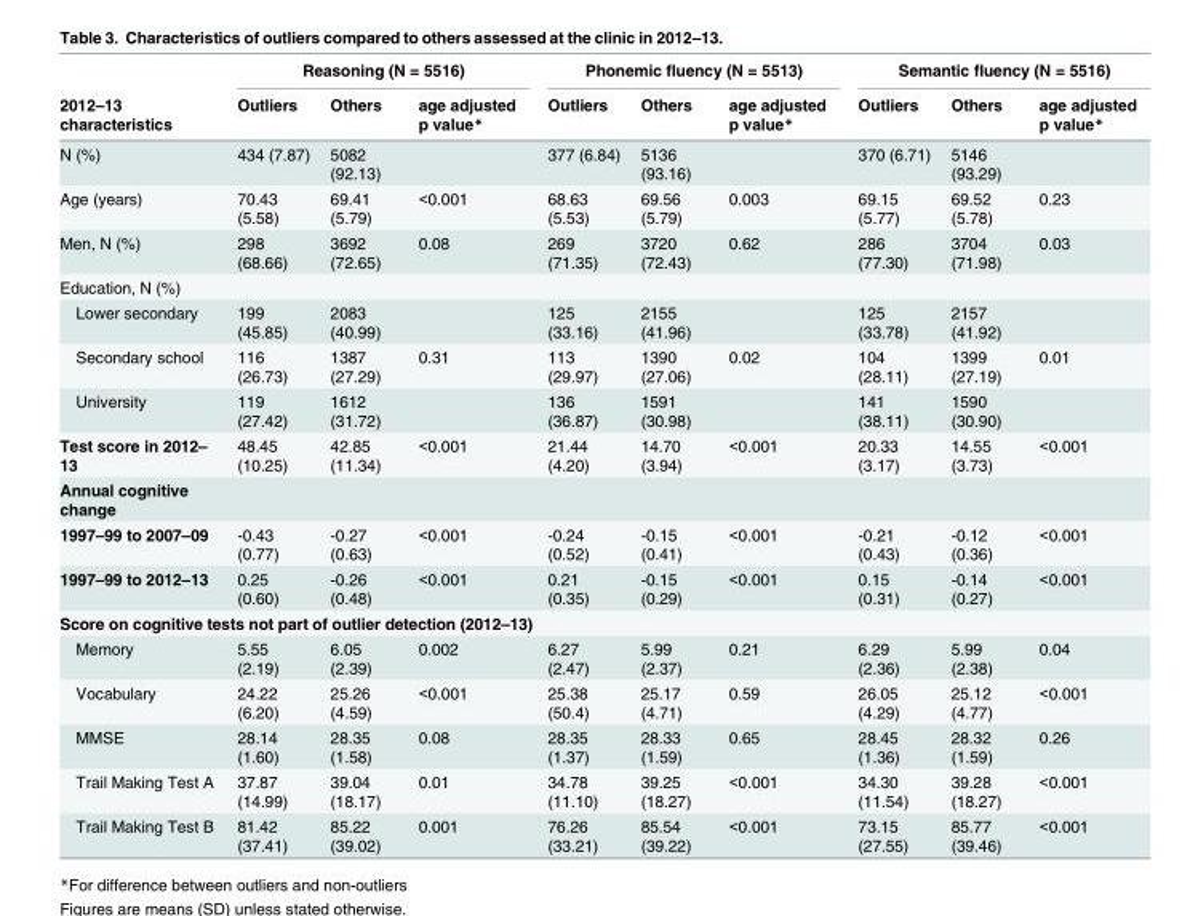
<table><thead><tr><td rowspan="2">2012–13 characteristics</td><td colspan="3">Reasoning (N = 5516)</td><td colspan="3">Phonemic fluency (N = 5513)</td><td colspan="3">Semantic fluency (N = 5516)</td></tr><tr><td>Outliers</td><td>Others</td><td>age adjusted p value*</td><td>Outliers</td><td>Others</td><td>age adjusted p value*</td><td>Outliers</td><td>Others</td><td>age adjusted p value*</td></tr></thead><tbody><tr><td>N (%)</td><td>434 (7.87)</td><td>5082 (92.13)</td><td></td><td>377 (6.84)</td><td>5136 (93.16)</td><td></td><td>370 (6.71)</td><td>5146 (93.29)</td><td></td></tr><tr><td>Age (years)</td><td>70.43 (5.58)</td><td>69.41 (5.79)</td><td>&lt;0.001</td><td>68.63 (5.53)</td><td>69.56 (5.79)</td><td>0.003</td><td>69.15 (5.77)</td><td>69.52 (5.78)</td><td>0.23</td></tr><tr><td>Men, N (%)</td><td>298 (68.66)</td><td>3692 (72.65)</td><td>0.08</td><td>269 (71.35)</td><td>3720 (72.43)</td><td>0.62</td><td>286 (77.30)</td><td>3704 (71.98)</td><td>0.03</td></tr><tr><td colspan="10">Education, N (%)</td></tr><tr><td>Lower secondary</td><td>199 (45.85)</td><td>2083 (40.99)</td><td></td><td>125 (33.16)</td><td>2155 (41.96)</td><td></td><td>125 (33.78)</td><td>2157 (41.92)</td><td></td></tr><tr><td>Secondary school</td><td>116 (26.73)</td><td>1387 (27.29)</td><td>0.31</td><td>113 (29.97)</td><td>1390 (27.06)</td><td>0.02</td><td>104 (28.11)</td><td>1399 (27.19)</td><td>0.01</td></tr><tr><td>University</td><td>119 (27.42)</td><td>1612 (31.72)</td><td></td><td>136 (36.87)</td><td>1591 (30.98)</td><td></td><td>141 (38.11)</td><td>1590 (30.90)</td><td></td></tr><tr><td>Test score in 2012– 13</td><td>48.45 (10.25)</td><td>42.85 (11.34)</td><td>&lt;0.001</td><td>21.44 (4.20)</td><td>14.70 (3.94)</td><td>&lt;0.001</td><td>20.33 (3.17)</td><td>14.55 (3.73)</td><td>&lt;0.001</td></tr><tr><td colspan="10">Annual cognitive change</td></tr><tr><td>1997–99 to 2007–09</td><td>-0.43 (0.77)</td><td>-0.27 (0.63)</td><td>&lt;0.001</td><td>-0.24 (0.52)</td><td>-0.15 (0.41)</td><td>&lt;0.001</td><td>-0.21 (0.43)</td><td>-0.12 (0.36)</td><td>&lt;0.001</td></tr><tr><td>1997–99 to 2012–13</td><td>0.25 (0.60)</td><td>-0.26 (0.48)</td><td>&lt;0.001</td><td>0.21 (0.35)</td><td>-0.15 (0.29)</td><td>&lt;0.001</td><td>0.15 (0.31)</td><td>-0.14 (0.27)</td><td>&lt;0.001</td></tr><tr><td colspan="10">Score on cognitive tests not part of outlier detection (2012–13)</td></tr><tr><td>Memory</td><td>5.55 (2.19)</td><td>6.05 (2.39)</td><td>0.002</td><td>6.27 (2.47)</td><td>5.99 (2.37)</td><td>0.21</td><td>6.29 (2.36)</td><td>5.99 (2.38)</td><td>0.04</td></tr><tr><td>Vocabulary</td><td>24.22 (6.20)</td><td>25.26 (4.59)</td><td>&lt;0.001</td><td>25.38 (50.4)</td><td>25.17 (4.71)</td><td>0.59</td><td>26.05 (4.29)</td><td>25.12 (4.77)</td><td>&lt;0.001</td></tr><tr><td>MMSE</td><td>28.14 (1.60)</td><td>28.35 (1.58)</td><td>0.08</td><td>28.35 (1.37)</td><td>28.33 (1.59)</td><td>0.65</td><td>28.45 (1.36)</td><td>28.32 (1.59)</td><td>0.26</td></tr><tr><td>Trail Making Test A</td><td>37.87 (14.99)</td><td>39.04 (18.17)</td><td>0.01</td><td>34.78 (11.10)</td><td>39.25 (18.27)</td><td>&lt;0.001</td><td>34.30 (11.54)</td><td>39.28 (18.27)</td><td>&lt;0.001</td></tr><tr><td>Trail Making Test B</td><td>81.42 (37.41)</td><td>85.22 (39.02)</td><td>0.001</td><td>76.26 (33.21)</td><td>85.54 (39.22)</td><td>&lt;0.001</td><td>73.15 (27.55)</td><td>85.77 (39.46)</td><td>&lt;0.001</td></tr></tbody></table>